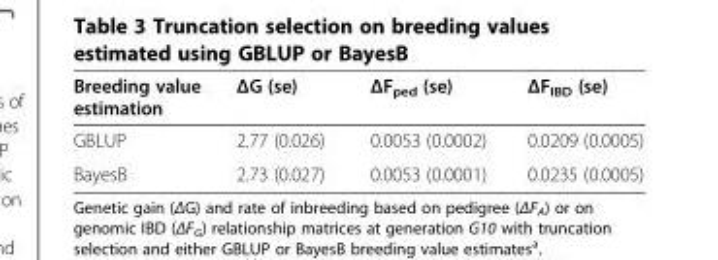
<table><thead><tr><td>Breeding value estimation</td><td>ΔG (se)</td><td>ΔF<sub>ped</sub> (se)</td><td>ΔF<sub>IBD</sub> (se)</td></tr></thead><tbody><tr><td>GBLUP</td><td>2.77 (0.026)</td><td>0.0053 (0.0002)</td><td>0.0209 (0.0005)</td></tr><tr><td>BayesB</td><td>2.73 (0.027)</td><td>0.0053 (0.0001)</td><td>0.0235 (0.0005)</td></tr></tbody></table>